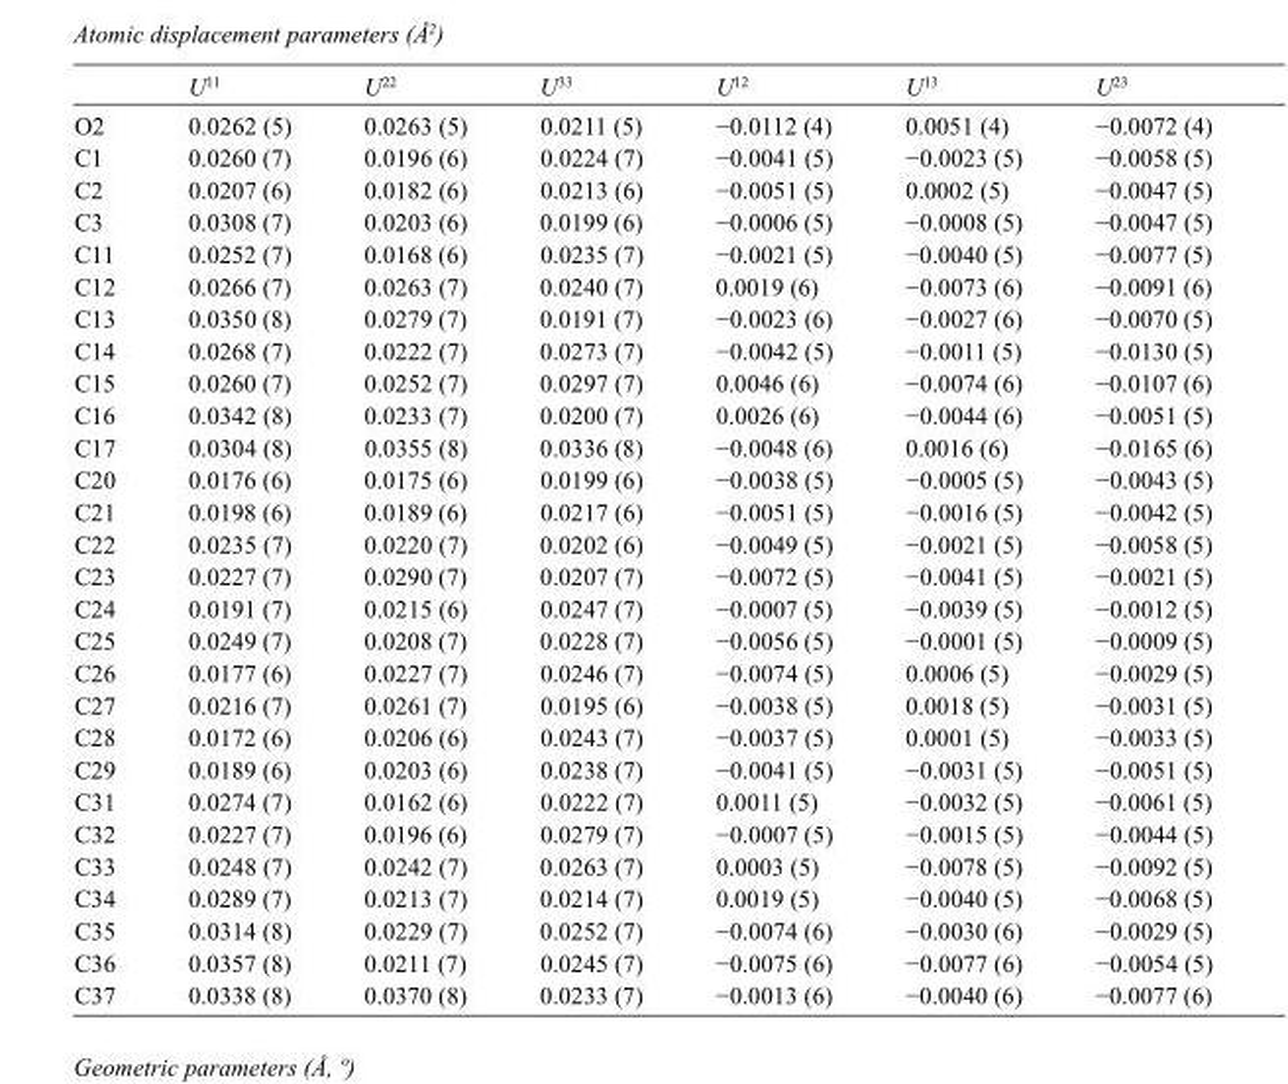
<table><thead><tr><td></td><td>U<sup>11</sup></td><td>U<sup>22</sup></td><td>U<sup>33</sup></td><td>U<sup>12</sup></td><td>U<sup>13</sup></td><td>U<sup>23</sup></td></tr></thead><tbody><tr><td>O2</td><td>0.0262 (5)</td><td>0.0263 (5)</td><td>0.0211 (5)</td><td>−0.0112 (4)</td><td>0.0051 (4)</td><td>−0.0072 (4)</td></tr><tr><td>C1</td><td>0.0260 (7)</td><td>0.0196 (6)</td><td>0.0224 (7)</td><td>−0.0041 (5)</td><td>−0.0023 (5)</td><td>−0.0058 (5)</td></tr><tr><td>C2</td><td>0.0207 (6)</td><td>0.0182 (6)</td><td>0.0213 (6)</td><td>−0.0051 (5)</td><td>0.0002 (5)</td><td>−0.0047 (5)</td></tr><tr><td>C3</td><td>0.0308 (7)</td><td>0.0203 (6)</td><td>0.0199 (6)</td><td>−0.0006 (5)</td><td>−0.0008 (5)</td><td>−0.0047 (5)</td></tr><tr><td>C11</td><td>0.0252 (7)</td><td>0.0168 (6)</td><td>0.0235 (7)</td><td>−0.0021 (5)</td><td>−0.0040 (5)</td><td>−0.0077 (5)</td></tr><tr><td>C12</td><td>0.0266 (7)</td><td>0.0263 (7)</td><td>0.0240 (7)</td><td>0.0019 (6)</td><td>−0.0073 (6)</td><td>−0.0091 (6)</td></tr><tr><td>C13</td><td>0.0350 (8)</td><td>0.0279 (7)</td><td>0.0191 (7)</td><td>−0.0023 (6)</td><td>−0.0027 (6)</td><td>−0.0070 (5)</td></tr><tr><td>C14</td><td>0.0268 (7)</td><td>0.0222 (7)</td><td>0.0273 (7)</td><td>−0.0042 (5)</td><td>−0.0011 (5)</td><td>−0.0130 (5)</td></tr><tr><td>C15</td><td>0.0260 (7)</td><td>0.0252 (7)</td><td>0.0297 (7)</td><td>0.0046 (6)</td><td>−0.0074 (6)</td><td>−0.0107 (6)</td></tr><tr><td>C16</td><td>0.0342 (8)</td><td>0.0233 (7)</td><td>0.0200 (7)</td><td>0.0026 (6)</td><td>−0.0044 (6)</td><td>−0.0051 (5)</td></tr><tr><td>C17</td><td>0.0304 (8)</td><td>0.0355 (8)</td><td>0.0336 (8)</td><td>−0.0048 (6)</td><td>0.0016 (6)</td><td>−0.0165 (6)</td></tr><tr><td>C20</td><td>0.0176 (6)</td><td>0.0175 (6)</td><td>0.0199 (6)</td><td>−0.0038 (5)</td><td>−0.0005 (5)</td><td>−0.0043 (5)</td></tr><tr><td>C21</td><td>0.0198 (6)</td><td>0.0189 (6)</td><td>0.0217 (6)</td><td>−0.0051 (5)</td><td>−0.0016 (5)</td><td>−0.0042 (5)</td></tr><tr><td>C22</td><td>0.0235 (7)</td><td>0.0220 (7)</td><td>0.0202 (6)</td><td>−0.0049 (5)</td><td>−0.0021 (5)</td><td>−0.0058 (5)</td></tr><tr><td>C23</td><td>0.0227 (7)</td><td>0.0290 (7)</td><td>0.0207 (7)</td><td>−0.0072 (5)</td><td>−0.0041 (5)</td><td>−0.0021 (5)</td></tr><tr><td>C24</td><td>0.0191 (7)</td><td>0.0215 (6)</td><td>0.0247 (7)</td><td>−0.0007 (5)</td><td>−0.0039 (5)</td><td>−0.0012 (5)</td></tr><tr><td>C25</td><td>0.0249 (7)</td><td>0.0208 (7)</td><td>0.0228 (7)</td><td>−0.0056 (5)</td><td>−0.0001 (5)</td><td>−0.0009 (5)</td></tr><tr><td>C26</td><td>0.0177 (6)</td><td>0.0227 (7)</td><td>0.0246 (7)</td><td>−0.0074 (5)</td><td>0.0006 (5)</td><td>−0.0029 (5)</td></tr><tr><td>C27</td><td>0.0216 (7)</td><td>0.0261 (7)</td><td>0.0195 (6)</td><td>−0.0038 (5)</td><td>0.0018 (5)</td><td>−0.0031 (5)</td></tr><tr><td>C28</td><td>0.0172 (6)</td><td>0.0206 (6)</td><td>0.0243 (7)</td><td>−0.0037 (5)</td><td>0.0001 (5)</td><td>−0.0033 (5)</td></tr><tr><td>C29</td><td>0.0189 (6)</td><td>0.0203 (6)</td><td>0.0238 (7)</td><td>−0.0041 (5)</td><td>−0.0031 (5)</td><td>−0.0051 (5)</td></tr><tr><td>C31</td><td>0.0274 (7)</td><td>0.0162 (6)</td><td>0.0222 (7)</td><td>0.0011 (5)</td><td>−0.0032 (5)</td><td>−0.0061 (5)</td></tr><tr><td>C32</td><td>0.0227 (7)</td><td>0.0196 (6)</td><td>0.0279 (7)</td><td>−0.0007 (5)</td><td>−0.0015 (5)</td><td>−0.0044 (5)</td></tr><tr><td>C33</td><td>0.0248 (7)</td><td>0.0242 (7)</td><td>0.0263 (7)</td><td>0.0003 (5)</td><td>−0.0078 (5)</td><td>−0.0092 (5)</td></tr><tr><td>C34</td><td>0.0289 (7)</td><td>0.0213 (7)</td><td>0.0214 (7)</td><td>0.0019 (5)</td><td>−0.0040 (5)</td><td>−0.0068 (5)</td></tr><tr><td>C35</td><td>0.0314 (8)</td><td>0.0229 (7)</td><td>0.0252 (7)</td><td>−0.0074 (6)</td><td>−0.0030 (6)</td><td>−0.0029 (5)</td></tr><tr><td>C36</td><td>0.0357 (8)</td><td>0.0211 (7)</td><td>0.0245 (7)</td><td>−0.0075 (6)</td><td>−0.0077 (6)</td><td>−0.0054 (5)</td></tr><tr><td>C37</td><td>0.0338 (8)</td><td>0.0370 (8)</td><td>0.0233 (7)</td><td>−0.0013 (6)</td><td>−0.0040 (6)</td><td>−0.0077 (6)</td></tr></tbody></table>